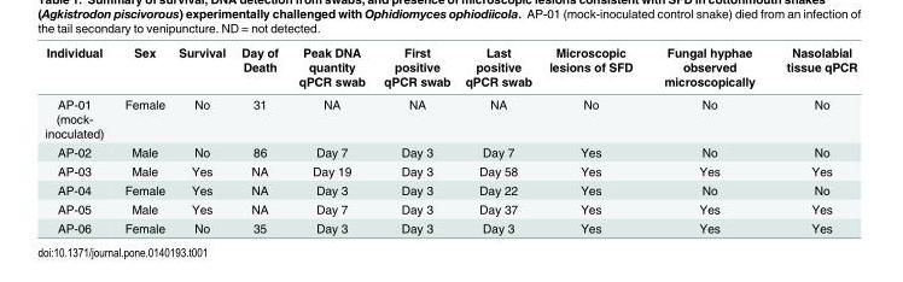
<table><thead><tr><td>Individual</td><td>Sex</td><td>Survival</td><td>Day of Death</td><td>Peak DNA quantity qPCR swab</td><td>First positive qPCR swab</td><td>Last positive qPCR swab</td><td>Microscopic lesions of SFD</td><td>Fungal hyphae observed microscopically</td><td>Nasolabial tissue qPCR</td></tr></thead><tbody><tr><td>AP-01 (mock- inoculated)</td><td>Female</td><td>No</td><td>31</td><td>NA</td><td>NA</td><td>NA</td><td>No</td><td>No</td><td>No</td></tr><tr><td>AP-02</td><td>Male</td><td>No</td><td>86</td><td>Day 7</td><td>Day 3</td><td>Day 7</td><td>Yes</td><td>No</td><td>No</td></tr><tr><td>AP-03</td><td>Male</td><td>Yes</td><td>NA</td><td>Day 19</td><td>Day 3</td><td>Day 58</td><td>Yes</td><td>Yes</td><td>Yes</td></tr><tr><td>AP-04</td><td>Female</td><td>Yes</td><td>NA</td><td>Day 3</td><td>Day 3</td><td>Day 22</td><td>Yes</td><td>No</td><td>No</td></tr><tr><td>AP-05</td><td>Male</td><td>Yes</td><td>NA</td><td>Day 7</td><td>Day 3</td><td>Day 37</td><td>Yes</td><td>Yes</td><td>Yes</td></tr><tr><td>AP-06</td><td>Female</td><td>No</td><td>35</td><td>Day 3</td><td>Day 3</td><td>Day 3</td><td>Yes</td><td>Yes</td><td>Yes</td></tr></tbody></table>